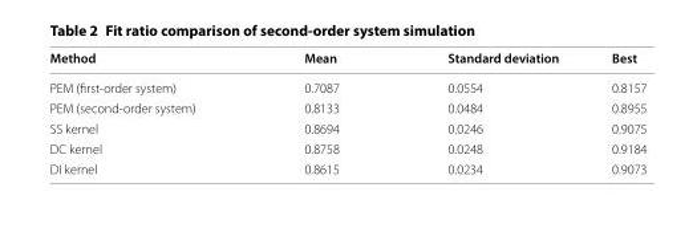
<table><thead><tr><td>Method</td><td>Mean</td><td>Standard deviation</td><td>Best</td></tr></thead><tbody><tr><td>PEM (first-order system)</td><td>0.7087</td><td>0.0554</td><td>0.8157</td></tr><tr><td>PEM (second-order system)</td><td>0.8133</td><td>0.0484</td><td>0.8955</td></tr><tr><td>SS kernel</td><td>0.8694</td><td>0.0246</td><td>0.9075</td></tr><tr><td>DC kernel</td><td>0.8758</td><td>0.0248</td><td>0.9184</td></tr><tr><td>DI kernel</td><td>0.8615</td><td>0.0234</td><td>0.9073</td></tr></tbody></table>